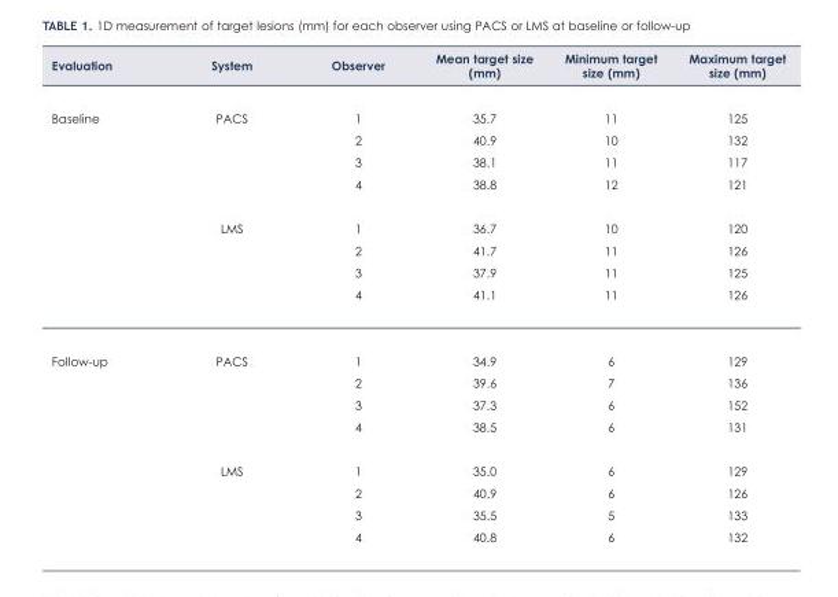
<table><thead><tr><td>Evaluation</td><td>System</td><td>Observer</td><td>Mean target size (mm)</td><td>Minimum target size (mm)</td><td>Maximum target size (mm)</td></tr></thead><tbody><tr><td rowspan="8">Baseline</td><td>PACS</td><td>1</td><td>35.7</td><td>11</td><td>125</td></tr><tr><td></td><td>2</td><td>40.9</td><td>10</td><td>132</td></tr><tr><td></td><td>3</td><td>38.1</td><td>11</td><td>117</td></tr><tr><td></td><td>4</td><td>38.8</td><td>12</td><td>121</td></tr><tr><td>LMS</td><td>1</td><td>36.7</td><td>10</td><td>120</td></tr><tr><td></td><td>2</td><td>41.7</td><td>11</td><td>126</td></tr><tr><td></td><td>3</td><td>37.9</td><td>11</td><td>125</td></tr><tr><td></td><td>4</td><td>41.1</td><td>11</td><td>126</td></tr><tr><td rowspan="8">Follow-up</td><td>PACS</td><td>1</td><td>34.9</td><td>6</td><td>129</td></tr><tr><td></td><td>2</td><td>39.6</td><td>7</td><td>136</td></tr><tr><td></td><td>3</td><td>37.3</td><td>6</td><td>152</td></tr><tr><td></td><td>4</td><td>38.5</td><td>6</td><td>131</td></tr><tr><td>LMS</td><td>1</td><td>35.0</td><td>6</td><td>129</td></tr><tr><td></td><td>2</td><td>40.9</td><td>6</td><td>126</td></tr><tr><td></td><td>3</td><td>35.5</td><td>5</td><td>133</td></tr><tr><td></td><td>4</td><td>40.8</td><td>6</td><td>132</td></tr></tbody></table>